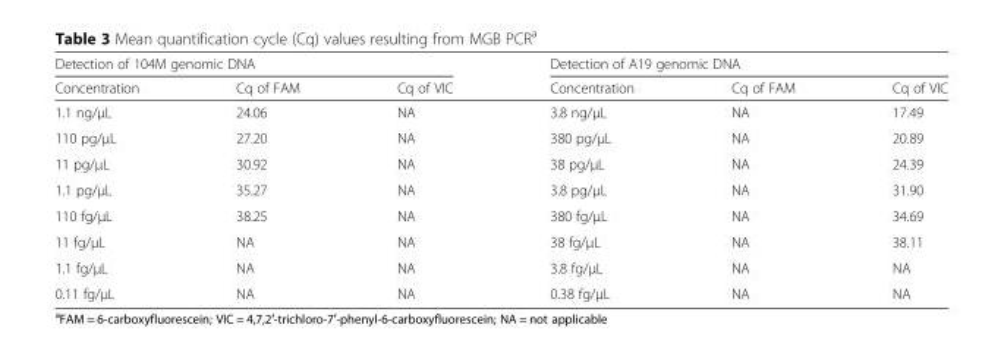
<table><thead><tr><td colspan="3">Detection of 104M genomic DNA</td><td colspan="3">Detection of A19 genomic DNA</td></tr><tr><td>Concentration</td><td>Cq of FAM</td><td>Cq of VIC</td><td>Concentration</td><td>Cq of FAM</td><td>Cq of VIC</td></tr></thead><tbody><tr><td>1.1 ng/μL</td><td>24.06</td><td>NA</td><td>3.8 ng/μL</td><td>NA</td><td>17.49</td></tr><tr><td>110 pg/μL</td><td>27.20</td><td>NA</td><td>380 pg/μL</td><td>NA</td><td>20.89</td></tr><tr><td>11 pg/μL</td><td>30.92</td><td>NA</td><td>38 pg/μL</td><td>NA</td><td>24.39</td></tr><tr><td>1.1 pg/μL</td><td>35.27</td><td>NA</td><td>3.8 pg/μL</td><td>NA</td><td>31.90</td></tr><tr><td>110 fg/μL</td><td>38.25</td><td>NA</td><td>380 fg/μL</td><td>NA</td><td>34.69</td></tr><tr><td>11 fg/μL</td><td>NA</td><td>NA</td><td>38 fg/μL</td><td>NA</td><td>38.11</td></tr><tr><td>1.1 fg/μL</td><td>NA</td><td>NA</td><td>3.8 fg/μL</td><td>NA</td><td>NA</td></tr><tr><td>0.11 fg/μL</td><td>NA</td><td>NA</td><td>0.38 fg/μL</td><td>NA</td><td>NA</td></tr></tbody></table>